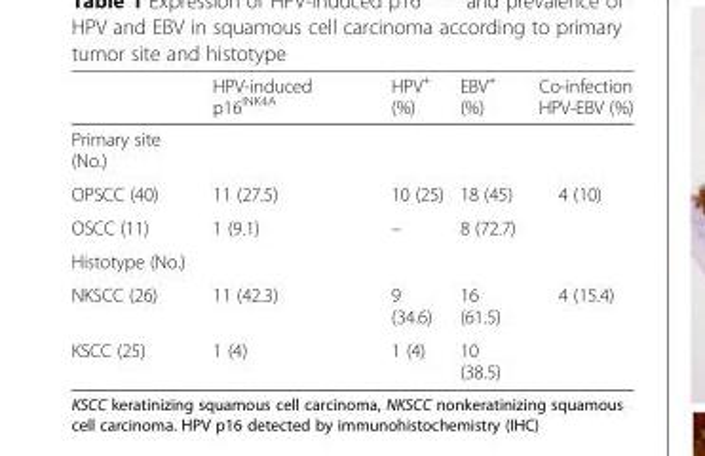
<table><thead><tr><td></td><td>HPV-induced p16<sup>INK4A</sup></td><td>HPV<sup>+</sup> (%)</td><td>EBV<sup>+</sup> (%)</td><td>Co-infection HPV-EBV (%)</td></tr></thead><tbody><tr><td colspan="5">Primary site (No.)</td></tr><tr><td>OPSCC (40)</td><td>11 (27.5)</td><td>10 (25)</td><td>18 (45)</td><td rowspan="2">4 (10)</td></tr><tr><td>OSCC (11)</td><td>1 (9.1)</td><td>–</td><td>8 (72.7)</td></tr><tr><td colspan="5">Histotype (No.)</td></tr><tr><td>NKSCC (26)</td><td>11 (42.3)</td><td>9 (34.6)</td><td>16 (61.5)</td><td rowspan="2">4 (15.4)</td></tr><tr><td>KSCC (25)</td><td>1 (4)</td><td>1 (4)</td><td>10 (38.5)</td></tr></tbody></table>